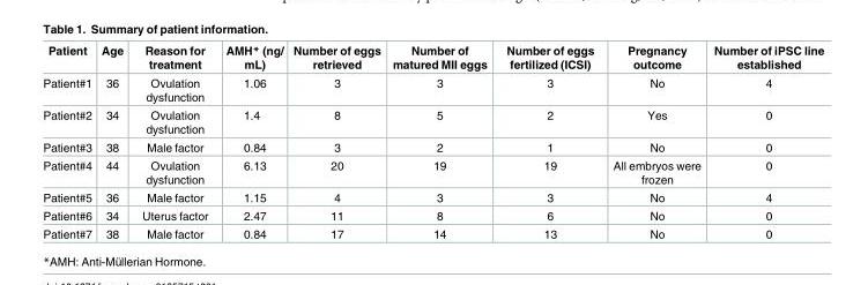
<table><thead><tr><td>Patient</td><td>Age</td><td>Reason for treatment</td><td>AMH* (ng/ mL)</td><td>Number of eggs retrieved</td><td>Number of matured MII eggs</td><td>Number of eggs fertilized (ICSI)</td><td>Pregnancy outcome</td><td>Number of iPSC line established</td></tr></thead><tbody><tr><td>Patient#1</td><td>36</td><td>Ovulation dysfunction</td><td>1.06</td><td>3</td><td>3</td><td>3</td><td>No</td><td>4</td></tr><tr><td>Patient#2</td><td>34</td><td>Ovulation dysfunction</td><td>1.4</td><td>8</td><td>5</td><td>2</td><td>Yes</td><td>0</td></tr><tr><td>Patient#3</td><td>38</td><td>Male factor</td><td>0.84</td><td>3</td><td>2</td><td>1</td><td>No</td><td>0</td></tr><tr><td>Patient#4</td><td>44</td><td>Ovulation dysfunction</td><td>6.13</td><td>20</td><td>19</td><td>19</td><td>All embryos were frozen</td><td>0</td></tr><tr><td>Patient#5</td><td>36</td><td>Male factor</td><td>1.15</td><td>4</td><td>3</td><td>3</td><td>No</td><td>4</td></tr><tr><td>Patient#6</td><td>34</td><td>Uterus factor</td><td>2.47</td><td>11</td><td>8</td><td>6</td><td>No</td><td>0</td></tr><tr><td>Patient#7</td><td>38</td><td>Male factor</td><td>0.84</td><td>17</td><td>14</td><td>13</td><td>No</td><td>0</td></tr></tbody></table>